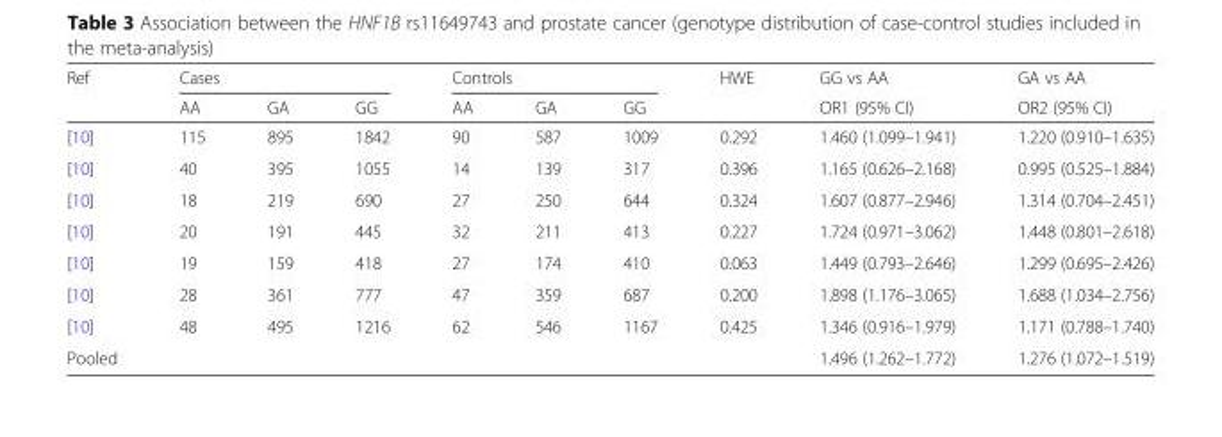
<table><thead><tr><td rowspan="2">Ref</td><td colspan="3">Cases</td><td colspan="3">Controls</td><td rowspan="2">HWE</td><td rowspan="2">GG vs AA OR1 (95% CI)</td><td rowspan="2">GA vs AA OR2 (95% CI)</td></tr><tr><td>AA</td><td>GA</td><td>GG</td><td>AA</td><td>GA</td><td>GG</td></tr></thead><tbody><tr><td>[10]</td><td>115</td><td>895</td><td>1842</td><td>90</td><td>587</td><td>1009</td><td>0.292</td><td>1.460 (1.099–1.941)</td><td>1.220 (0.910–1.635)</td></tr><tr><td>[10]</td><td>40</td><td>395</td><td>1055</td><td>14</td><td>139</td><td>317</td><td>0.396</td><td>1.165 (0.626–2.168)</td><td>0.995 (0.525–1.884)</td></tr><tr><td>[10]</td><td>18</td><td>219</td><td>690</td><td>27</td><td>250</td><td>644</td><td>0.324</td><td>1.607 (0.877–2.946)</td><td>1.314 (0.704–2.451)</td></tr><tr><td>[10]</td><td>20</td><td>191</td><td>445</td><td>32</td><td>211</td><td>413</td><td>0.227</td><td>1.724 (0.971–3.062)</td><td>1.448 (0.801–2.618)</td></tr><tr><td>[10]</td><td>19</td><td>159</td><td>418</td><td>27</td><td>174</td><td>410</td><td>0.063</td><td>1.449 (0.793–2.646)</td><td>1.299 (0.695–2.426)</td></tr><tr><td>[10]</td><td>28</td><td>361</td><td>777</td><td>47</td><td>359</td><td>687</td><td>0.200</td><td>1.898 (1.176–3.065)</td><td>1.688 (1.034–2.756)</td></tr><tr><td>[10]</td><td>48</td><td>495</td><td>1216</td><td>62</td><td>546</td><td>1167</td><td>0.425</td><td>1.346 (0.916–1.979)</td><td>1.171 (0.788–1.740)</td></tr><tr><td>Pooled</td><td></td><td></td><td></td><td></td><td></td><td></td><td></td><td>1.496 (1.262–1.772)</td><td>1.276 (1.072–1.519)</td></tr></tbody></table>